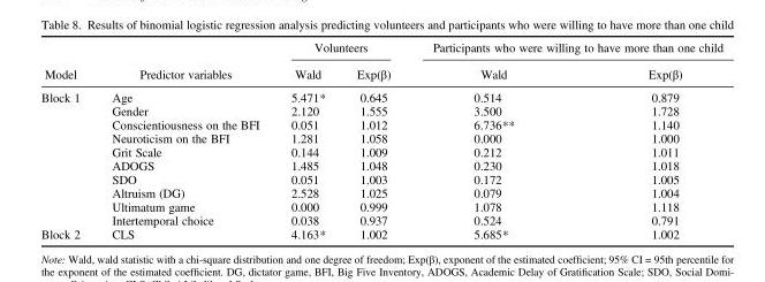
<table><thead><tr><td rowspan="2">Model</td><td rowspan="2">Predictor variables</td><td colspan="2">Volunteers</td><td colspan="2">Participants who were willing to have more than one child</td></tr><tr><td>Wald</td><td>Exp(β)</td><td>Wald</td><td>Exp(β)</td></tr></thead><tbody><tr><td rowspan="10">Block 1</td><td>Age</td><td>5.471*</td><td>0.645</td><td>0.514</td><td>0.879</td></tr><tr><td>Gender</td><td>2.120</td><td>1.555</td><td>3.500</td><td>1.728</td></tr><tr><td>Conscientiousness on the BFI</td><td>0.051</td><td>1.012</td><td>6.736**</td><td>1.140</td></tr><tr><td>Neuroticism on the BFI</td><td>1.281</td><td>1.058</td><td>0.000</td><td>1.000</td></tr><tr><td>Grit Scale</td><td>0.144</td><td>1.009</td><td>0.212</td><td>1.011</td></tr><tr><td>ADOGS</td><td>1.485</td><td>1.048</td><td>0.230</td><td>1.018</td></tr><tr><td>SDO</td><td>0.051</td><td>1.003</td><td>0.172</td><td>1.005</td></tr><tr><td>Altruism (DG)</td><td>2.528</td><td>1.025</td><td>0.079</td><td>1.004</td></tr><tr><td>Ultimatum game</td><td>0.000</td><td>0.999</td><td>1.078</td><td>1.118</td></tr><tr><td>Intertemporal choice</td><td>0.038</td><td>0.937</td><td>0.524</td><td>0.791</td></tr><tr><td>Block 2</td><td>CLS</td><td>4.163*</td><td>1.002</td><td>5.685*</td><td>1.002</td></tr></tbody></table>